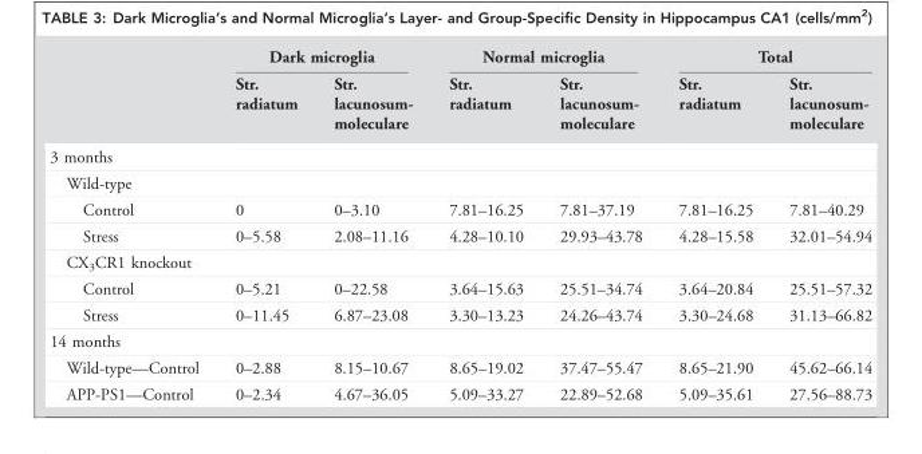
<table><thead><tr><td rowspan="2"></td><td colspan="2">Dark microglia</td><td colspan="2">Normal microglia</td><td colspan="2">Total</td></tr><tr><td>Str. radiatum</td><td>Str. lacunosum- moleculare</td><td>Str. radiatum</td><td>Str. lacunosum- moleculare</td><td>Str. radiatum</td><td>Str. lacunosum- moleculare</td></tr></thead><tbody><tr><td colspan="7">3 months</td></tr><tr><td colspan="7">Wild-type</td></tr><tr><td>Control</td><td>0</td><td>0–3.10</td><td>7.81–16.25</td><td>7.81–37.19</td><td>7.81–16.25</td><td>7.81–40.29</td></tr><tr><td>Stress</td><td>0–5.58</td><td>2.08–11.16</td><td>4.28–10.10</td><td>29.93–43.78</td><td>4.28–15.58</td><td>32.01–54.94</td></tr><tr><td colspan="7">CX<sub>3</sub>CR1 knockout</td></tr><tr><td>Control</td><td>0–5.21</td><td>0–22.58</td><td>3.64–15.63</td><td>25.51–34.74</td><td>3.64–20.84</td><td>25.51–57.32</td></tr><tr><td>Stress</td><td>0–11.45</td><td>6.87–23.08</td><td>3.30–13.23</td><td>24.26–43.74</td><td>3.30–24.68</td><td>31.13–66.82</td></tr><tr><td colspan="7">14 months</td></tr><tr><td>Wild-type—Control</td><td>0–2.88</td><td>8.15–10.67</td><td>8.65–19.02</td><td>37.47–55.47</td><td>8.65–21.90</td><td>45.62–66.14</td></tr><tr><td>APP-PS1—Control</td><td>0–2.34</td><td>4.67–36.05</td><td>5.09–33.27</td><td>22.89–52.68</td><td>5.09–35.61</td><td>27.56–88.73</td></tr></tbody></table>